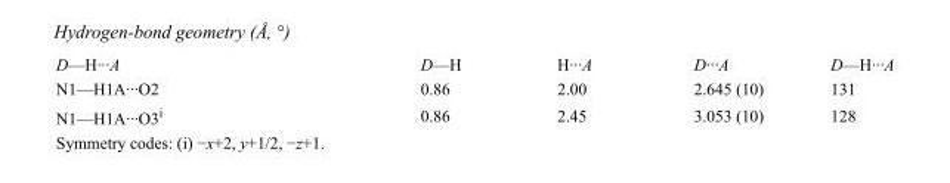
<table><tbody><tr><td>D—H···A</td><td>D—H</td><td>H···A</td><td>D···A</td><td>D—H···A</td></tr><tr><td>N1—H1A···O2</td><td>0.86</td><td>2.00</td><td>2.645 (10)</td><td>131</td></tr><tr><td>N1—H1A···O3<sup>i</sup></td><td>0.86</td><td>2.45</td><td>3.053 (10)</td><td>128</td></tr></tbody></table>